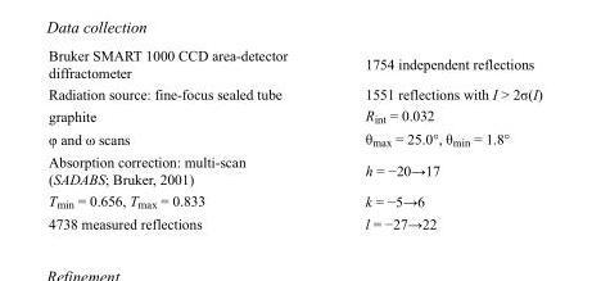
<table><tbody><tr><td>Bruker SMART 1000 CCD area-detector diffractometer</td><td>1754 independent reflections</td></tr><tr><td>Radiation source: fine-focus sealed tube</td><td>1551 reflections with I &gt; 2σ(I)</td></tr><tr><td>graphite</td><td>R<sub>int</sub> = 0.032</td></tr><tr><td>φ and ω scans</td><td>θ<sub>max</sub> = 25.0°, θ<sub>min</sub> = 1.8°</td></tr><tr><td>Absorption correction: multi-scan (SADABS; Bruker, 2001)</td><td>h = −20→17</td></tr><tr><td>T<sub>min</sub> = 0.656, T<sub>max</sub> = 0.833</td><td>k = −5→6</td></tr><tr><td>4738 measured reflections</td><td>l = −27→22</td></tr></tbody></table>